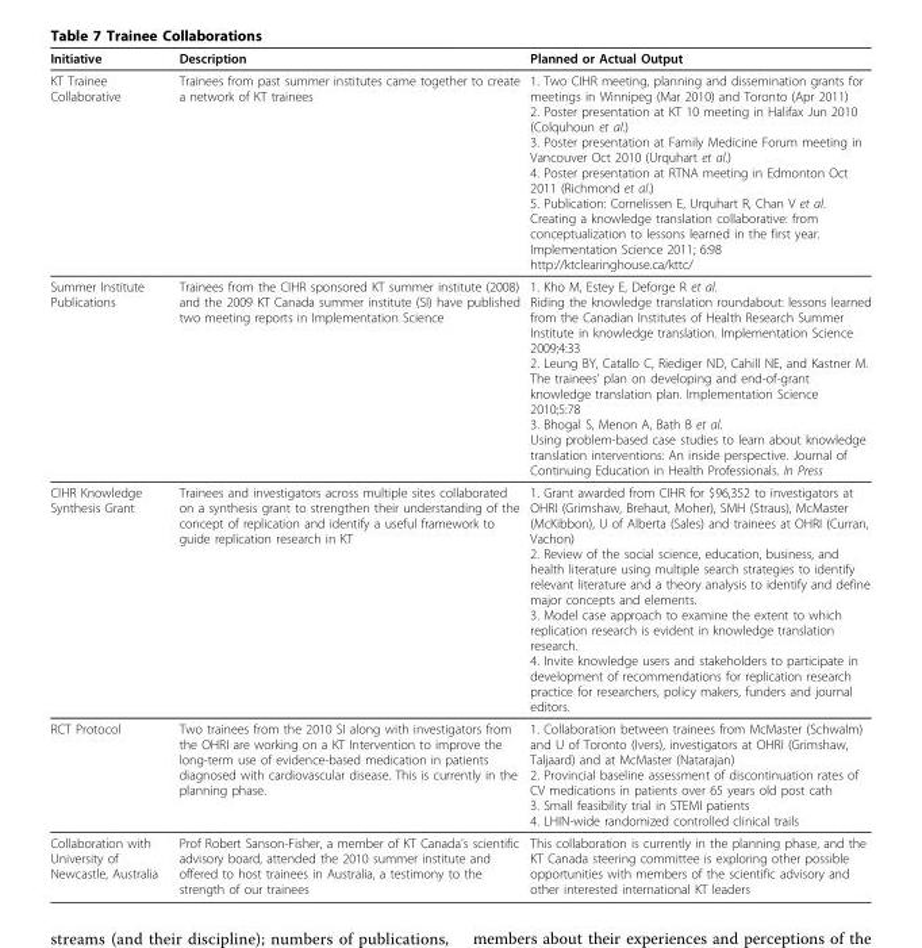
<table><thead><tr><td>Initiative</td><td>Description</td><td>Planned or Actual Output</td></tr></thead><tbody><tr><td>KT Trainee Collaborative</td><td>Trainees from past summer institutes came together to create a network of KT trainees</td><td>1. Two CIHR meeting, planning and dissemination grants for meetings in Winnipeg (Mar 2010) and Toronto (Apr 2011) 2. Poster presentation at KT 10 meeting in Halifax Jun 2010 (Colquhoun et al.) 3. Poster presentation at Family Medicine Forum meeting in Vancouver Oct 2010 (Urquhart et al.) 4. Poster presentation at RTNA meeting in Edmonton Oct 2011 (Richmond et al.) 5. Publication: Cornelissen E, Urquhart R, Chan V et al. Creating a knowledge translation collaborative: from conceptualization to lessons learned in the first year. Implementation Science 2011; 6:98 http://ktclearinghouse.ca/kttc/</td></tr><tr><td>Summer Institute Publications</td><td>Trainees from the CIHR sponsored KT summer institute (2008) and the 2009 KT Canada summer institute (SI) have published two meeting reports in Implementation Science</td><td>1. Kho M, Estey E, Deforge R et al. Riding the knowledge translation roundabout: lessons learned from the Canadian Institutes of Health Research Summer Institute in knowledge translation. Implementation Science 2009;4:33 2. Leung BY, Catallo C, Riediger ND, Cahill NE, and Kastner M. The trainees’ plan on developing and end-of-grant knowledge translation plan. Implementation Science 2010;5:78 3. Bhogal S, Menon A, Bath B et al. Using problem-based case studies to learn about knowledge translation interventions: An inside perspective. Journal of Continuing Education in Health Professionals. In Press</td></tr><tr><td>CIHR Knowledge Synthesis Grant</td><td>Trainees and investigators across multiple sites collaborated on a synthesis grant to strengthen their understanding of the concept of replication and identify a useful framework to guide replication research in KT</td><td>1. Grant awarded from CIHR for $96,352 to investigators at OHRI (Grimshaw, Brehaut, Moher), SMH (Straus), McMaster (McKibbon), U of Alberta (Sales) and trainees at OHRI (Curran, Vachon) 2. Review of the social science, education, business, and health literature using multiple search strategies to identify relevant literature and a theory analysis to identify and define major concepts and elements. 3. Model case approach to examine the extent to which replication research is evident in knowledge translation research. 4. Invite knowledge users and stakeholders to participate in development of recommendations for replication research practice for researchers, policy makers, funders and journal editors.</td></tr><tr><td>RCT Protocol</td><td>Two trainees from the 2010 SI along with investigators from the OHRI are working on a KT Intervention to improve the long-term use of evidence-based medication in patients diagnosed with cardiovascular disease. This is currently in the planning phase.</td><td>1. Collaboration between trainees from McMaster (Schwalm) and U of Toronto (Ivers), investigators at OHRI (Grimshaw, Taljaard) and at McMaster (Natarajan) 2. Provincial baseline assessment of discontinuation rates of CV medications in patients over 65 years old post cath 3. Small feasibility trial in STEMI patients 4. LHIN-wide randomized controlled clinical trails</td></tr><tr><td>Collaboration with University of Newcastle, Australia</td><td>Prof Robert Sanson-Fisher, a member of KT Canada’s scientific advisory board, attended the 2010 summer institute and offered to host trainees in Australia, a testimony to the strength of our trainees</td><td>This collaboration is currently in the planning phase, and the KT Canada steering committee is exploring other possible opportunities with members of the scientific advisory and other interested international KT leaders</td></tr></tbody></table>